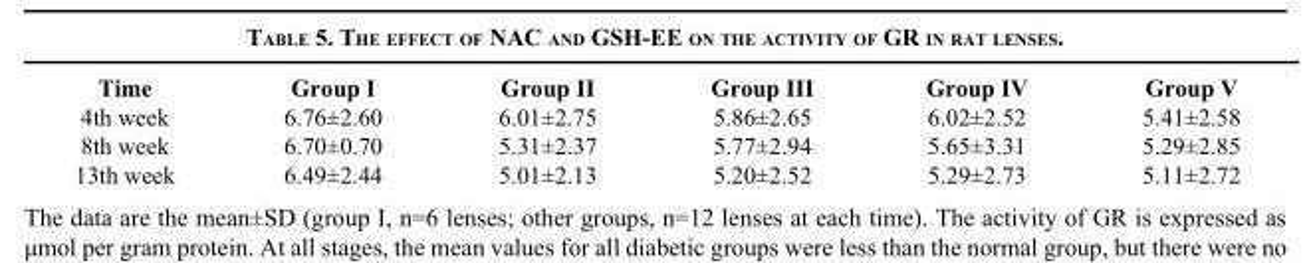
<table><tbody><tr><td>Time</td><td>Group I</td><td>Group II</td><td>Group III</td><td>Group IV</td><td>Group V</td></tr><tr><td>4th week</td><td>6.76±2.60</td><td>6.01±2.75</td><td>5.86±2.65</td><td>6.02±2.52</td><td>5.41±2.58</td></tr><tr><td>8th week</td><td>6.70±0.70</td><td>5.31±2.37</td><td>5.77±2.94</td><td>5.65±3.31</td><td>5.29±2.85</td></tr><tr><td>13th week</td><td>6.49±2.44</td><td>5.01±2.13</td><td>5.20±2.52</td><td>5.29±2.73</td><td>5.11±2.72</td></tr></tbody></table>